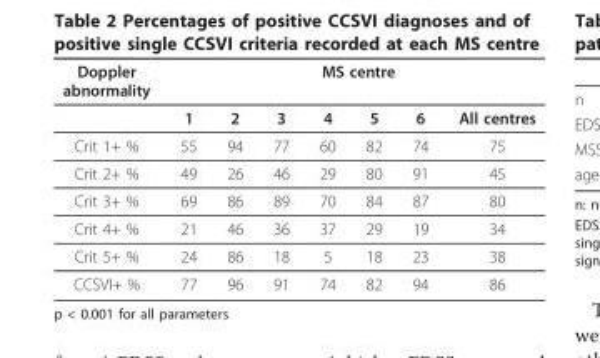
<table><thead><tr><td rowspan="2">Doppler abnormality</td><td colspan="7">MS centre</td></tr><tr><td>1</td><td>2</td><td>3</td><td>4</td><td>5</td><td>6</td><td>All centres</td></tr></thead><tbody><tr><td>Crit 1+ %</td><td>55</td><td>94</td><td>77</td><td>60</td><td>82</td><td>74</td><td>75</td></tr><tr><td>Crit 2+ %</td><td>49</td><td>26</td><td>46</td><td>29</td><td>80</td><td>91</td><td>45</td></tr><tr><td>Crit 3+ %</td><td>69</td><td>86</td><td>89</td><td>70</td><td>84</td><td>87</td><td>80</td></tr><tr><td>Crit 4+ %</td><td>21</td><td>46</td><td>36</td><td>37</td><td>29</td><td>19</td><td>34</td></tr><tr><td>Crit 5+ %</td><td>24</td><td>86</td><td>18</td><td>5</td><td>18</td><td>23</td><td>38</td></tr><tr><td>CCSVI+ %</td><td>77</td><td>96</td><td>91</td><td>74</td><td>82</td><td>94</td><td>86</td></tr></tbody></table>